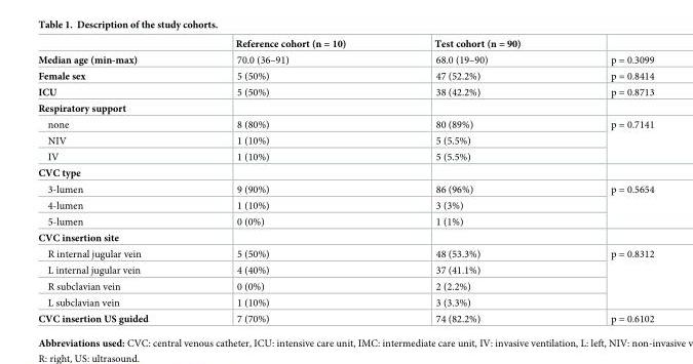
<table><thead><tr><td></td><td>Reference cohort (n = 10)</td><td>Test cohort (n = 90)</td><td></td></tr></thead><tbody><tr><td>Median age (min-max)</td><td>70.0 (36–91)</td><td>68.0 (19–90)</td><td>p = 0.3099</td></tr><tr><td>Female sex</td><td>5 (50%)</td><td>47 (52.2%)</td><td>p = 0.8414</td></tr><tr><td>ICU</td><td>5 (50%)</td><td>38 (42.2%)</td><td>p = 0.8713</td></tr><tr><td colspan="4">Respiratory support</td></tr><tr><td>none</td><td>8 (80%)</td><td>80 (89%)</td><td rowspan="3">p = 0.7141</td></tr><tr><td>NIV</td><td>1 (10%)</td><td>5 (5.5%)</td></tr><tr><td>IV</td><td>1 (10%)</td><td>5 (5.5%)</td></tr><tr><td colspan="4">CVC type</td></tr><tr><td>3-lumen</td><td>9 (90%)</td><td>86 (96%)</td><td rowspan="3">p = 0.5654</td></tr><tr><td>4-lumen</td><td>1 (10%)</td><td>3 (3%)</td></tr><tr><td>5-lumen</td><td>0 (0%)</td><td>1 (1%)</td></tr><tr><td colspan="4">CVC insertion site</td></tr><tr><td>R internal jugular vein</td><td>5 (50%)</td><td>48 (53.3%)</td><td rowspan="4">p = 0.8312</td></tr><tr><td>L internal jugular vein</td><td>4 (40%)</td><td>37 (41.1%)</td></tr><tr><td>R subclavian vein</td><td>0 (0%)</td><td>2 (2.2%)</td></tr><tr><td>L subclavian vein</td><td>1 (10%)</td><td>3 (3.3%)</td></tr><tr><td>CVC insertion US guided</td><td>7 (70%)</td><td>74 (82.2%)</td><td>p = 0.6102</td></tr></tbody></table>